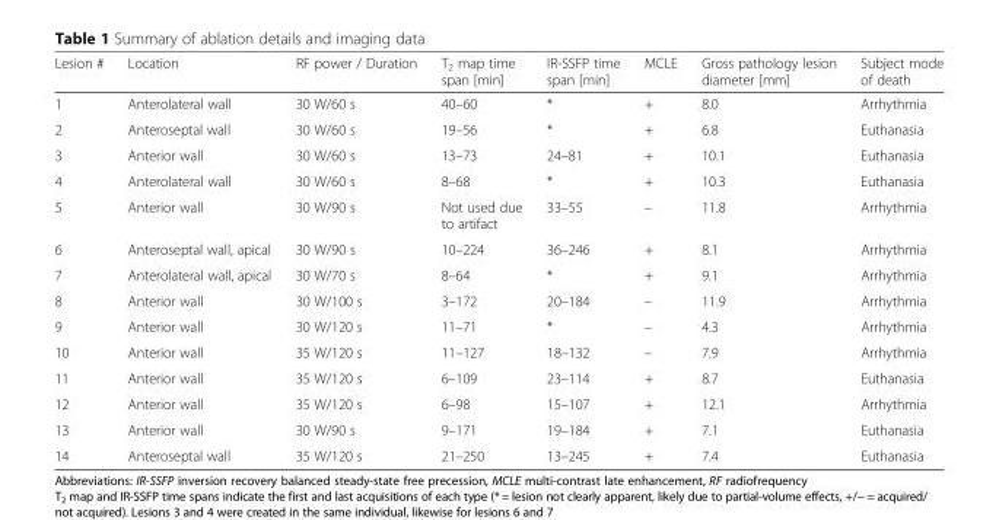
<table><thead><tr><td>Lesion #</td><td>Location</td><td>RF power / Duration</td><td>T<sub>2</sub> map time span [min]</td><td>IR-SSFP time span [min]</td><td>MCLE</td><td>Gross pathology lesion diameter [mm]</td><td>Subject mode of death</td></tr></thead><tbody><tr><td>1</td><td>Anterolateral wall</td><td>30 W/60 s</td><td>40–60</td><td>*</td><td>+</td><td>8.0</td><td>Arrhythmia</td></tr><tr><td>2</td><td>Anteroseptal wall</td><td>30 W/60 s</td><td>19–56</td><td>*</td><td>+</td><td>6.8</td><td>Euthanasia</td></tr><tr><td>3</td><td>Anterior wall</td><td>30 W/60 s</td><td>13–73</td><td>24–81</td><td>+</td><td>10.1</td><td>Euthanasia</td></tr><tr><td>4</td><td>Anterolateral wall</td><td>30 W/60 s</td><td>8–68</td><td>*</td><td>+</td><td>10.3</td><td>Euthanasia</td></tr><tr><td>5</td><td>Anterior wall</td><td>30 W/90 s</td><td>Not used due to artifact</td><td>33–55</td><td>–</td><td>11.8</td><td>Arrhythmia</td></tr><tr><td>6</td><td>Anteroseptal wall, apical</td><td>30 W/90 s</td><td>10–224</td><td>36–246</td><td>+</td><td>8.1</td><td>Arrhythmia</td></tr><tr><td>7</td><td>Anterolateral wall, apical</td><td>30 W/70 s</td><td>8–64</td><td>*</td><td>+</td><td>9.1</td><td>Arrhythmia</td></tr><tr><td>8</td><td>Anterior wall</td><td>30 W/100 s</td><td>3–172</td><td>20–184</td><td>–</td><td>11.9</td><td>Arrhythmia</td></tr><tr><td>9</td><td>Anterior wall</td><td>30 W/120 s</td><td>11–71</td><td>*</td><td>–</td><td>4.3</td><td>Arrhythmia</td></tr><tr><td>10</td><td>Anterior wall</td><td>35 W/120 s</td><td>11–127</td><td>18–132</td><td>–</td><td>7.9</td><td>Arrhythmia</td></tr><tr><td>11</td><td>Anterior wall</td><td>35 W/120 s</td><td>6–109</td><td>23–114</td><td>+</td><td>8.7</td><td>Euthanasia</td></tr><tr><td>12</td><td>Anterior wall</td><td>35 W/120 s</td><td>6–98</td><td>15–107</td><td>+</td><td>12.1</td><td>Arrhythmia</td></tr><tr><td>13</td><td>Anterior wall</td><td>30 W/90 s</td><td>9–171</td><td>19–184</td><td>+</td><td>7.1</td><td>Euthanasia</td></tr><tr><td>14</td><td>Anteroseptal wall</td><td>35 W/120 s</td><td>21–250</td><td>13–245</td><td>+</td><td>7.4</td><td>Euthanasia</td></tr></tbody></table>